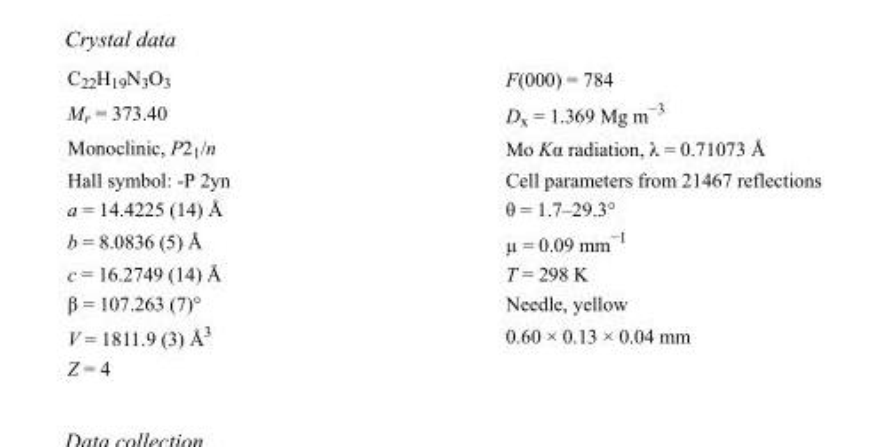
<table><tbody><tr><td>C<sub>22</sub>H<sub>19</sub>N<sub>3</sub>O<sub>3</sub></td><td>F(000) = 784</td></tr><tr><td>M<sub>r</sub> = 373.40</td><td>D<sub>x</sub> = 1.369 Mg m<sup>−3</sup></td></tr><tr><td>Monoclinic, P2<sub>1</sub>/n</td><td>Mo Kα radiation, λ = 0.71073 Å</td></tr><tr><td>Hall symbol: -P 2yn</td><td>Cell parameters from 21467 reflections</td></tr><tr><td>a = 14.4225 (14) Å</td><td>θ = 1.7–29.3°</td></tr><tr><td>b = 8.0836 (5) Å</td><td>µ = 0.09 mm<sup>−1</sup></td></tr><tr><td>c = 16.2749 (14) Å</td><td>T = 298 K</td></tr><tr><td>β = 107.263 (7)°</td><td>Needle, yellow</td></tr><tr><td>V = 1811.9 (3) Å<sup>3</sup></td><td>0.60 × 0.13 × 0.04 mm</td></tr><tr><td>Z = 4</td><td></td></tr></tbody></table>